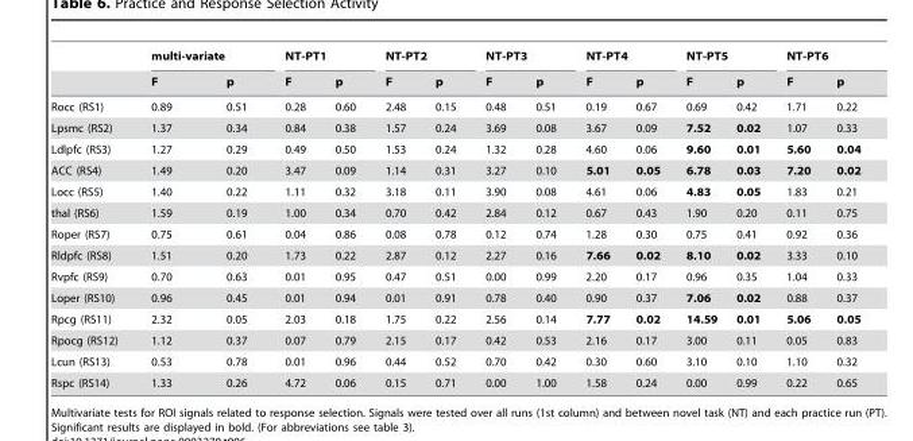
<table><thead><tr><td rowspan="2"></td><td colspan="2">multi-variate</td><td colspan="2">NT-PT1</td><td colspan="2">NT-PT2</td><td colspan="2">NT-PT3</td><td colspan="2">NT-PT4</td><td colspan="2">NT-PT5</td><td colspan="2">NT-PT6</td></tr><tr><td>F</td><td>p</td><td>F</td><td>p</td><td>F</td><td>p</td><td>F</td><td>p</td><td>F</td><td>p</td><td>F</td><td>p</td><td>F</td><td>p</td></tr></thead><tbody><tr><td>Rocc (RS1)</td><td>0.89</td><td>0.51</td><td>0.28</td><td>0.60</td><td>2.48</td><td>0.15</td><td>0.48</td><td>0.51</td><td>0.19</td><td>0.67</td><td>0.69</td><td>0.42</td><td>1.71</td><td>0.22</td></tr><tr><td>Lpsmc (RS2)</td><td>1.37</td><td>0.34</td><td>0.84</td><td>0.38</td><td>1.57</td><td>0.24</td><td>3.69</td><td>0.08</td><td>3.67</td><td>0.09</td><td>7.52</td><td>0.02</td><td>1.07</td><td>0.33</td></tr><tr><td>Ldlpfc (RS3)</td><td>1.27</td><td>0.29</td><td>0.49</td><td>0.50</td><td>1.53</td><td>0.24</td><td>1.32</td><td>0.28</td><td>4.60</td><td>0.06</td><td>9.60</td><td>0.01</td><td>5.60</td><td>0.04</td></tr><tr><td>ACC (RS4)</td><td>1.49</td><td>0.20</td><td>3.47</td><td>0.09</td><td>1.14</td><td>0.31</td><td>3.27</td><td>0.10</td><td>5.01</td><td>0.05</td><td>6.78</td><td>0.03</td><td>7.20</td><td>0.02</td></tr><tr><td>Locc (RS5)</td><td>1.40</td><td>0.22</td><td>1.11</td><td>0.32</td><td>3.18</td><td>0.11</td><td>3.90</td><td>0.08</td><td>4.61</td><td>0.06</td><td>4.83</td><td>0.05</td><td>1.83</td><td>0.21</td></tr><tr><td>thal (RS6)</td><td>1.59</td><td>0.19</td><td>1.00</td><td>0.34</td><td>0.70</td><td>0.42</td><td>2.84</td><td>0.12</td><td>0.67</td><td>0.43</td><td>1.90</td><td>0.20</td><td>0.11</td><td>0.75</td></tr><tr><td>Roper (RS7)</td><td>0.75</td><td>0.61</td><td>0.04</td><td>0.86</td><td>0.08</td><td>0.78</td><td>0.12</td><td>0.74</td><td>1.28</td><td>0.30</td><td>0.75</td><td>0.41</td><td>0.92</td><td>0.36</td></tr><tr><td>Rldpfc (RS8)</td><td>1.51</td><td>0.20</td><td>1.73</td><td>0.22</td><td>2.87</td><td>0.12</td><td>2.27</td><td>0.16</td><td>7.66</td><td>0.02</td><td>8.10</td><td>0.02</td><td>3.33</td><td>0.10</td></tr><tr><td>Rvpfc (RS9)</td><td>0.70</td><td>0.63</td><td>0.01</td><td>0.95</td><td>0.47</td><td>0.51</td><td>0.00</td><td>0.99</td><td>2.20</td><td>0.17</td><td>0.96</td><td>0.35</td><td>1.04</td><td>0.33</td></tr><tr><td>Loper (RS10)</td><td>0.96</td><td>0.45</td><td>0.01</td><td>0.94</td><td>0.01</td><td>0.91</td><td>0.78</td><td>0.40</td><td>0.90</td><td>0.37</td><td>7.06</td><td>0.02</td><td>0.88</td><td>0.37</td></tr><tr><td>Rpcg (RS11)</td><td>2.32</td><td>0.05</td><td>2.03</td><td>0.18</td><td>1.75</td><td>0.22</td><td>2.56</td><td>0.14</td><td>7.77</td><td>0.02</td><td>14.59</td><td>0.01</td><td>5.06</td><td>0.05</td></tr><tr><td>Rpocg (RS12)</td><td>1.12</td><td>0.37</td><td>0.07</td><td>0.79</td><td>2.15</td><td>0.17</td><td>0.42</td><td>0.53</td><td>2.16</td><td>0.17</td><td>3.00</td><td>0.11</td><td>0.05</td><td>0.83</td></tr><tr><td>Lcun (RS13)</td><td>0.53</td><td>0.78</td><td>0.01</td><td>0.96</td><td>0.44</td><td>0.52</td><td>0.70</td><td>0.42</td><td>0.30</td><td>0.60</td><td>3.10</td><td>0.10</td><td>1.10</td><td>0.32</td></tr><tr><td>Rspc (RS14)</td><td>1.33</td><td>0.26</td><td>4.72</td><td>0.06</td><td>0.15</td><td>0.71</td><td>0.00</td><td>1.00</td><td>1.58</td><td>0.24</td><td>0.00</td><td>0.99</td><td>0.22</td><td>0.65</td></tr></tbody></table>